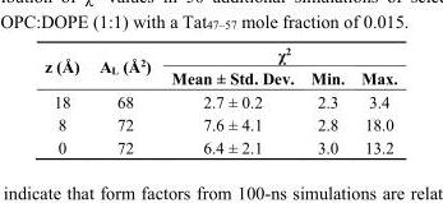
<table><thead><tr><td rowspan="2">z (Å)</td><td rowspan="2">A<sub>L</sub> (Å<sup>2</sup>)</td><td colspan="3">χ<sup>2</sup></td></tr><tr><td>Mean ± Std. Dev.</td><td>Min.</td><td>Max.</td></tr></thead><tbody><tr><td>18</td><td>68</td><td>2.7 ± 0.2</td><td>2.3</td><td>3.4</td></tr><tr><td>8</td><td>72</td><td>7.6 ± 4.1</td><td>2.8</td><td>18.0</td></tr><tr><td>0</td><td>72</td><td>6.4 ± 2.1</td><td>3.0</td><td>13.2</td></tr></tbody></table>